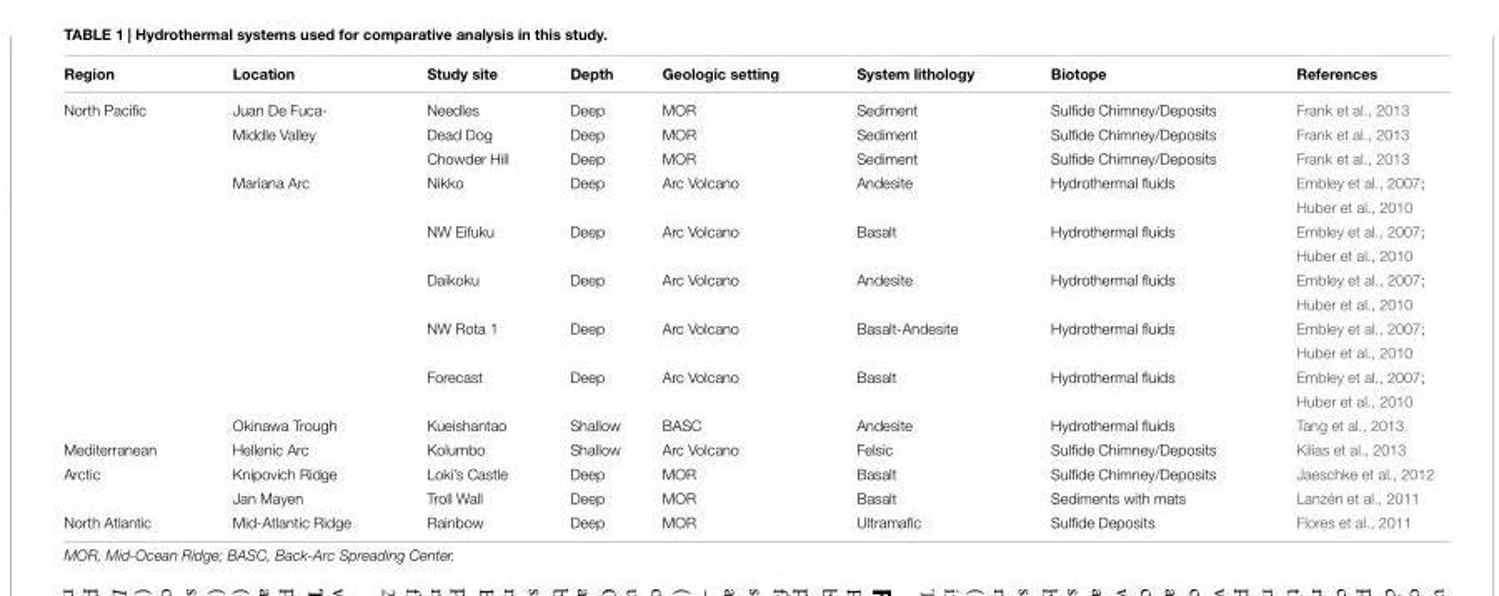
<table><thead><tr><td>Region</td><td>Location</td><td>Study site</td><td>Depth</td><td>Geologic setting</td><td>System lithology</td><td>Biotope</td><td>References</td></tr></thead><tbody><tr><td rowspan="14">North Pacific</td><td>Juan De Fuca-</td><td>Needles</td><td>Deep</td><td>MOR</td><td>Sediment</td><td>Sulfide Chimney/Deposits</td><td>Frank et al., 2013</td></tr><tr><td>Middle Valley</td><td>Dead Dog</td><td>Deep</td><td>MOR</td><td>Sediment</td><td>Sulfide Chimney/Deposits</td><td>Frank et al., 2013</td></tr><tr><td></td><td>Chowder Hill</td><td>Deep</td><td>MOR</td><td>Sediment</td><td>Sulfide Chimney/Deposits</td><td>Frank et al., 2013</td></tr><tr><td>Mariana Arc</td><td>Nikko</td><td>Deep</td><td>Arc Volcano</td><td>Andesite</td><td>Hydrothermal fluids</td><td>Embley et al., 2007;</td></tr><tr><td></td><td></td><td></td><td></td><td></td><td></td><td>Huber et al., 2010</td></tr><tr><td></td><td>NW Eifuku</td><td>Deep</td><td>Arc Volcano</td><td>Basalt</td><td>Hydrothermal fluids</td><td>Embley et al., 2007;</td></tr><tr><td></td><td></td><td></td><td></td><td></td><td></td><td>Huber et al., 2010</td></tr><tr><td></td><td>Daikoku</td><td>Deep</td><td>Arc Volcano</td><td>Andesite</td><td>Hydrothermal fluids</td><td>Embley et al., 2007;</td></tr><tr><td></td><td></td><td></td><td></td><td></td><td></td><td>Huber et al., 2010</td></tr><tr><td></td><td>NW Rota 1</td><td>Deep</td><td>Arc Volcano</td><td>Basalt-Andesite</td><td>Hydrothermal fluids</td><td>Embley et al., 2007;</td></tr><tr><td></td><td></td><td></td><td></td><td></td><td></td><td>Huber et al., 2010</td></tr><tr><td></td><td>Forecast</td><td>Deep</td><td>Arc Volcano</td><td>Basalt</td><td>Hydrothermal fluids</td><td>Embley et al., 2007;</td></tr><tr><td></td><td></td><td></td><td></td><td></td><td></td><td>Huber et al., 2010</td></tr><tr><td>Okinawa Trough</td><td>Kueishantao</td><td>Shallow</td><td>BASC</td><td>Andesite</td><td>Hydrothermal fluids</td><td>Tang et al., 2013</td></tr><tr><td>Mediterranean</td><td>Hellenic Arc</td><td>Kolumbo</td><td>Shallow</td><td>Arc Volcano</td><td>Felsic</td><td>Sulfide Chimney/Deposits</td><td>Kilias et al., 2013</td></tr><tr><td rowspan="2">Arctic</td><td>Knipovich Ridge</td><td>Loki’s Castle</td><td>Deep</td><td>MOR</td><td>Basalt</td><td>Sulfide Chimney/Deposits</td><td>Jaeschke et al., 2012</td></tr><tr><td>Jan Mayen</td><td>Troll Wall</td><td>Deep</td><td>MOR</td><td>Basalt</td><td>Sediments with mats</td><td>Lanzén et al., 2011</td></tr><tr><td>North Atlantic</td><td>Mid-Atlantic Ridge</td><td>Rainbow</td><td>Deep</td><td>MOR</td><td>Ultramafic</td><td>Sulfide Deposits</td><td>Flores et al., 2011</td></tr></tbody></table>